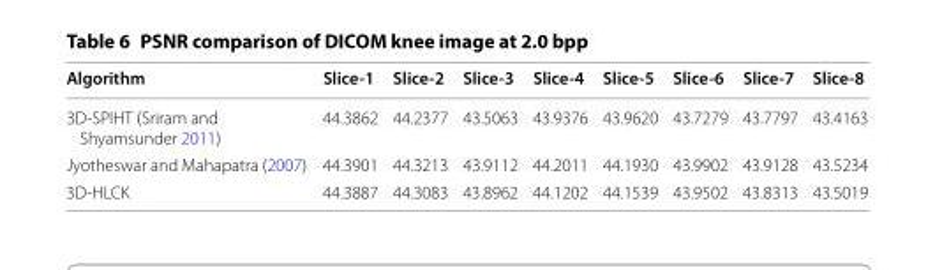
<table><thead><tr><td>Algorithm</td><td>Slice‑1</td><td>Slice‑2</td><td>Slice‑3</td><td>Slice‑4</td><td>Slice‑5</td><td>Slice‑6</td><td>Slice‑7</td><td>Slice‑8</td></tr></thead><tbody><tr><td>3D-SPIHT (Sriram and Shyamsunder 2011)</td><td>44.3862</td><td>44.2377</td><td>43.5063</td><td>43.9376</td><td>43.9620</td><td>43.7279</td><td>43.7797</td><td>43.4163</td></tr><tr><td>Jyotheswar and Mahapatra (2007)</td><td>44.3901</td><td>44.3213</td><td>43.9112</td><td>44.2011</td><td>44.1930</td><td>43.9902</td><td>43.9128</td><td>43.5234</td></tr><tr><td>3D-HLCK</td><td>44.3887</td><td>44.3083</td><td>43.8962</td><td>44.1202</td><td>44.1539</td><td>43.9502</td><td>43.8313</td><td>43.5019</td></tr></tbody></table>